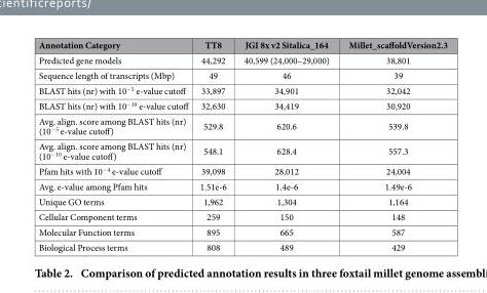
<table><thead><tr><td>Annotation Category</td><td>TT8</td><td>JGI 8x v2 Sitalica_164</td><td>Millet_scaffoldVersion2.3</td></tr></thead><tbody><tr><td>Predicted gene models</td><td>44,292</td><td>40,599 (24,000–29,000)</td><td>38,801</td></tr><tr><td>Sequence length of transcripts (Mbp)</td><td>49</td><td>46</td><td>39</td></tr><tr><td>BLAST hits (nr) with 10<sup>−5</sup> e-value cutoff</td><td>33,897</td><td>34,901</td><td>32,042</td></tr><tr><td>BLAST hits (nr) with 10<sup>−10</sup> e-value cutoff</td><td>32,630</td><td>34,419</td><td>30,920</td></tr><tr><td>Avg. align. score among BLAST hits (nr) (10<sup>−5</sup> e-value cutoff)</td><td>529.8</td><td>620.6</td><td>539.8</td></tr><tr><td>Avg. align. score among BLAST hits (nr) (10<sup>−10</sup> e-value cutoff)</td><td>548.1</td><td>628.4</td><td>557.3</td></tr><tr><td>Pfam hits with 10<sup>−4</sup> e-value cutoff</td><td>39,098</td><td>28,012</td><td>24,004</td></tr><tr><td>Avg. e-value among Pfam hits</td><td>1.51e-6</td><td>1.4e-6</td><td>1.49e-6</td></tr><tr><td>Unique GO terms</td><td>1,962</td><td>1,304</td><td>1,164</td></tr><tr><td>Cellular Component terms</td><td>259</td><td>150</td><td>148</td></tr><tr><td>Molecular Function terms</td><td>895</td><td>665</td><td>587</td></tr><tr><td>Biological Process terms</td><td>808</td><td>489</td><td>429</td></tr></tbody></table>